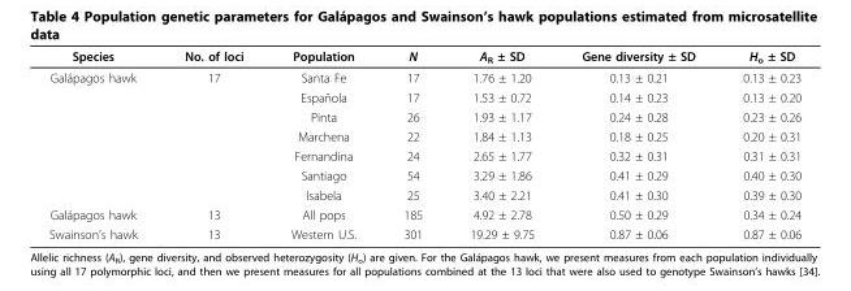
<table><thead><tr><td>Species</td><td>No. of loci</td><td>Population</td><td>N</td><td>A<sub>R</sub> ± SD</td><td>Gene diversity ± SD</td><td>H<sub>o</sub> ± SD</td></tr></thead><tbody><tr><td rowspan="7">Galápagos hawk</td><td>17</td><td>Santa Fe</td><td>17</td><td>1.76 ± 1.20</td><td>0.13 ± 0.21</td><td>0.13 ± 0.23</td></tr><tr><td></td><td>Española</td><td>17</td><td>1.53 ± 0.72</td><td>0.14 ± 0.23</td><td>0.13 ± 0.20</td></tr><tr><td></td><td>Pinta</td><td>26</td><td>1.93 ± 1.17</td><td>0.24 ± 0.28</td><td>0.23 ± 0.26</td></tr><tr><td></td><td>Marchena</td><td>22</td><td>1.84 ± 1.13</td><td>0.18 ± 0.25</td><td>0.20 ± 0.31</td></tr><tr><td></td><td>Fernandina</td><td>24</td><td>2.65 ± 1.77</td><td>0.32 ± 0.31</td><td>0.31 ± 0.31</td></tr><tr><td></td><td>Santiago</td><td>54</td><td>3.29 ± 1.86</td><td>0.41 ± 0.29</td><td>0.40 ± 0.30</td></tr><tr><td></td><td>Isabela</td><td>25</td><td>3.40 ± 2.21</td><td>0.41 ± 0.30</td><td>0.39 ± 0.30</td></tr><tr><td>Galápagos hawk</td><td>13</td><td>All pops</td><td>185</td><td>4.92 ± 2.78</td><td>0.50 ± 0.29</td><td>0.34 ± 0.24</td></tr><tr><td>Swainson’s hawk</td><td>13</td><td>Western U.S.</td><td>301</td><td>19.29 ± 9.75</td><td>0.87 ± 0.06</td><td>0.87 ± 0.06</td></tr></tbody></table>